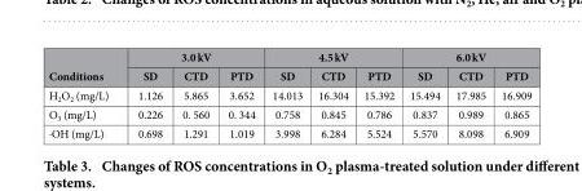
<table><thead><tr><td rowspan="2">Conditions</td><td colspan="3">3.0 kV</td><td colspan="3">4.5 kV</td><td colspan="3">6.0 kV</td></tr><tr><td>SD</td><td>CTD</td><td>PTD</td><td>SD</td><td>CTD</td><td>PTD</td><td>SD</td><td>CTD</td><td>PTD</td></tr></thead><tbody><tr><td>H<sub>2</sub>O<sub>2</sub> (mg/L)</td><td>1.126</td><td>5.865</td><td>3.652</td><td>14.013</td><td>16.304</td><td>15.392</td><td>15.494</td><td>17.985</td><td>16.909</td></tr><tr><td>O<sub>3</sub> (mg/L)</td><td>0.226</td><td>0. 560</td><td>0. 344</td><td>0.758</td><td>0.845</td><td>0.786</td><td>0.837</td><td>0.989</td><td>0.865</td></tr><tr><td>·OH (mg/L)</td><td>0.698</td><td>1.291</td><td>1.019</td><td>3.998</td><td>6.284</td><td>5.524</td><td>5.570</td><td>8.098</td><td>6.909</td></tr></tbody></table>